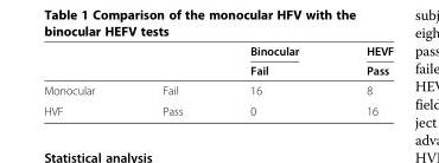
<table><thead><tr><td rowspan="2"></td><td rowspan="2"></td><td rowspan="2">Binocular Fail</td><td rowspan="2">HEVF Pass</td></tr><tr></tr></thead><tbody><tr><td>Monocular</td><td>Fail</td><td>16</td><td>8</td></tr><tr><td>HVF</td><td>Pass</td><td>0</td><td>16</td></tr></tbody></table>